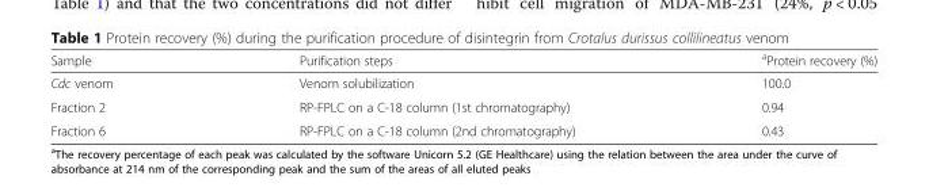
<table><thead><tr><td>Sample</td><td>Purification steps</td><td><sup>a</sup>Protein recovery (%)</td></tr></thead><tbody><tr><td>Cdc venom</td><td>Venom solubilization</td><td>100.0</td></tr><tr><td>Fraction 2</td><td>RP-FPLC on a C-18 column (1st chromatography)</td><td>0.94</td></tr><tr><td>Fraction 6</td><td>RP-FPLC on a C-18 column (2nd chromatography)</td><td>0.43</td></tr></tbody></table>